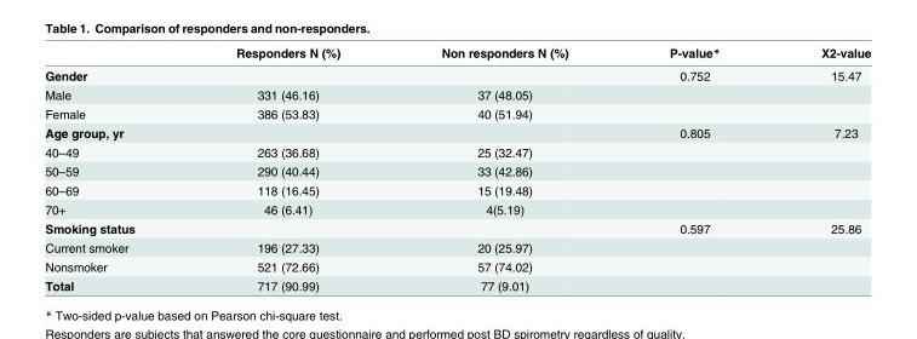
<table><thead><tr><td></td><td>Responders N (%)</td><td>Non responders N (%)</td><td>P-value*</td><td>X2-value</td></tr></thead><tbody><tr><td>Gender</td><td colspan="2"></td><td>0.752</td><td>15.47</td></tr><tr><td>Male</td><td>331 (46.16)</td><td>37 (48.05)</td><td></td><td></td></tr><tr><td>Female</td><td>386 (53.83)</td><td>40 (51.94)</td><td></td><td></td></tr><tr><td>Age group, yr</td><td colspan="2"></td><td>0.805</td><td>7.23</td></tr><tr><td>40–49</td><td>263 (36.68)</td><td>25 (32.47)</td><td></td><td></td></tr><tr><td>50–59</td><td>290 (40.44)</td><td>33 (42.86)</td><td></td><td></td></tr><tr><td>60–69</td><td>118 (16.45)</td><td>15 (19.48)</td><td></td><td></td></tr><tr><td>70+</td><td>46 (6.41)</td><td>4(5.19)</td><td></td><td></td></tr><tr><td>Smoking status</td><td colspan="2"></td><td>0.597</td><td>25.86</td></tr><tr><td>Current smoker</td><td>196 (27.33)</td><td>20 (25.97)</td><td></td><td></td></tr><tr><td>Nonsmoker</td><td>521 (72.66)</td><td>57 (74.02)</td><td></td><td></td></tr><tr><td>Total</td><td>717 (90.99)</td><td>77 (9.01)</td><td></td><td></td></tr></tbody></table>